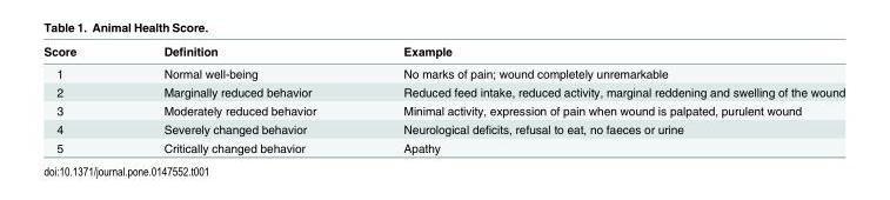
<table><thead><tr><td>Score</td><td>Definition</td><td>Example</td></tr></thead><tbody><tr><td>1</td><td>Normal well-being</td><td>No marks of pain; wound completely unremarkable</td></tr><tr><td>2</td><td>Marginally reduced behavior</td><td>Reduced feed intake, reduced activity, marginal reddening and swelling of the wound</td></tr><tr><td>3</td><td>Moderately reduced behavior</td><td>Minimal activity, expression of pain when wound is palpated, purulent wound</td></tr><tr><td>4</td><td>Severely changed behavior</td><td>Neurological deficits, refusal to eat, no faeces or urine</td></tr><tr><td>5</td><td>Critically changed behavior</td><td>Apathy</td></tr></tbody></table>